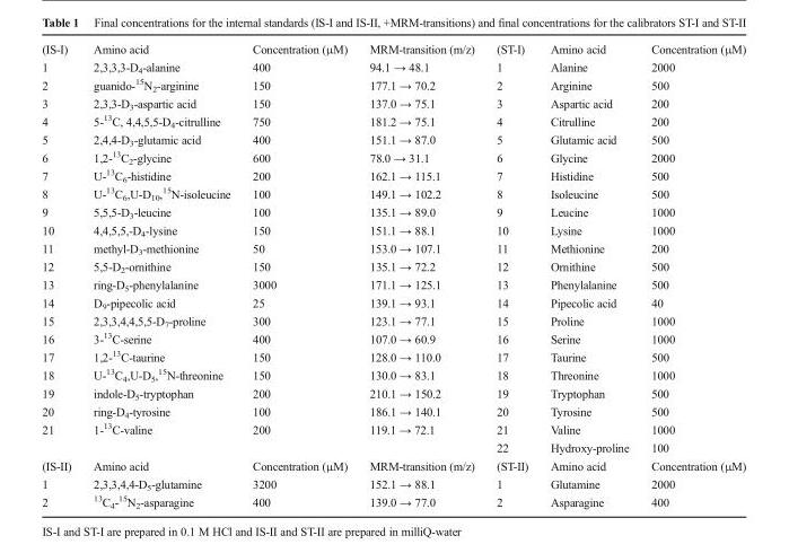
<table><tbody><tr><td>(IS-I)</td><td>Amino acid</td><td>Concentration (μM)</td><td>MRM-transition (m/z)</td><td>(ST-I)</td><td>Amino acid</td><td>Concentration (μM)</td></tr><tr><td>1</td><td>2,3,3,3-D<sub>4</sub>-alanine</td><td>400</td><td>94.1 → 48.1</td><td>1</td><td>Alanine</td><td>2000</td></tr><tr><td>2</td><td>guanido-<sup>15</sup>N<sub>2</sub>-arginine</td><td>150</td><td>177.1 → 70.2</td><td>2</td><td>Arginine</td><td>500</td></tr><tr><td>3</td><td>2,3,3-D<sub>3</sub>-aspartic acid</td><td>150</td><td>137.0 → 75.1</td><td>3</td><td>Aspartic acid</td><td>200</td></tr><tr><td>4</td><td>5-<sup>13</sup>C, 4,4,5,5-D<sub>4</sub>-citrulline</td><td>750</td><td>181.2 → 75.1</td><td>4</td><td>Citrulline</td><td>200</td></tr><tr><td>5</td><td>2,4,4-D<sub>3</sub>-glutamic acid</td><td>400</td><td>151.1 → 87.0</td><td>5</td><td>Glutamic acid</td><td>500</td></tr><tr><td>6</td><td>1,2-<sup>13</sup>C<sub>2</sub>-glycine</td><td>600</td><td>78.0 → 31.1</td><td>6</td><td>Glycine</td><td>2000</td></tr><tr><td>7</td><td>U-<sup>13</sup>C<sub>6</sub>-histidine</td><td>200</td><td>162.1 → 115.1</td><td>7</td><td>Histidine</td><td>500</td></tr><tr><td>8</td><td>U-<sup>13</sup>C<sub>6</sub>,U-D<sub>10</sub>,<sup>15</sup>N-isoleucine</td><td>100</td><td>149.1 → 102.2</td><td>8</td><td>Isoleucine</td><td>500</td></tr><tr><td>9</td><td>5,5,5-D<sub>3</sub>-leucine</td><td>100</td><td>135.1 → 89.0</td><td>9</td><td>Leucine</td><td>1000</td></tr><tr><td>10</td><td>4,4,5,5,-D<sub>4</sub>-lysine</td><td>150</td><td>151.1 → 88.1</td><td>10</td><td>Lysine</td><td>1000</td></tr><tr><td>11</td><td>methyl-D<sub>3</sub>-methionine</td><td>50</td><td>153.0 → 107.1</td><td>11</td><td>Methionine</td><td>200</td></tr><tr><td>12</td><td>5,5-D<sub>2</sub>-ornithine</td><td>150</td><td>135.1 → 72.2</td><td>12</td><td>Ornithine</td><td>500</td></tr><tr><td>13</td><td>ring-D<sub>5</sub>-phenylalanine</td><td>3000</td><td>171.1 → 125.1</td><td>13</td><td>Phenylalanine</td><td>500</td></tr><tr><td>14</td><td>D<sub>9</sub>-pipecolic acid</td><td>25</td><td>139.1 → 93.1</td><td>14</td><td>Pipecolic acid</td><td>40</td></tr><tr><td>15</td><td>2,3,3,4,4,5,5-D<sub>7</sub>-proline</td><td>300</td><td>123.1 → 77.1</td><td>15</td><td>Proline</td><td>1000</td></tr><tr><td>16</td><td>3-<sup>13</sup>C-serine</td><td>400</td><td>107.0 → 60.9</td><td>16</td><td>Serine</td><td>1000</td></tr><tr><td>17</td><td>1,2-<sup>13</sup>C-taurine</td><td>150</td><td>128.0 → 110.0</td><td>17</td><td>Taurine</td><td>500</td></tr><tr><td>18</td><td>U-<sup>13</sup>C<sub>4</sub>,U-D<sub>5</sub>,<sup>15</sup>N-threonine</td><td>150</td><td>130.0 → 83.1</td><td>18</td><td>Threonine</td><td>1000</td></tr><tr><td>19</td><td>indole-D<sub>5</sub>-tryptophan</td><td>200</td><td>210.1 → 150.2</td><td>19</td><td>Tryptophan</td><td>500</td></tr><tr><td>20</td><td>ring-D<sub>4</sub>-tyrosine</td><td>100</td><td>186.1 → 140.1</td><td>20</td><td>Tyrosine</td><td>500</td></tr><tr><td rowspan="2">21</td><td>1-<sup>13</sup>C-valine</td><td>200</td><td>119.1 → 72.1</td><td>21</td><td>Valine</td><td>1000</td></tr><tr><td></td><td></td><td></td><td>22</td><td>Hydroxy-proline</td><td>100</td></tr><tr><td>(IS-II)</td><td>Amino acid</td><td>Concentration (μM)</td><td>MRM-transition (m/z)</td><td>(ST-II)</td><td>Amino acid</td><td>Concentration (μM)</td></tr><tr><td>1</td><td>2,3,3,4,4-D<sub>5</sub>-glutamine</td><td>3200</td><td>152.1 → 88.1</td><td>1</td><td>Glutamine</td><td>2000</td></tr><tr><td>2</td><td><sup>13</sup>C<sub>4</sub>-<sup>15</sup>N<sub>2</sub>-asparagine</td><td>400</td><td>139.0 → 77.0</td><td>2</td><td>Asparagine</td><td>400</td></tr></tbody></table>